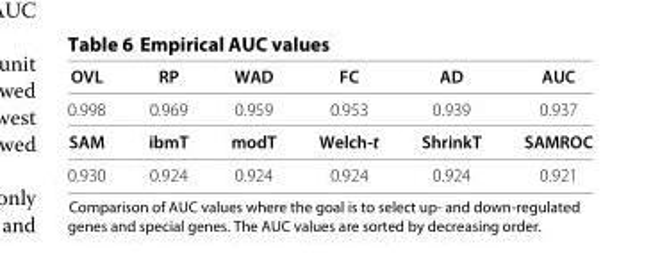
<table><thead><tr><td>OVL</td><td>RP</td><td>WAD</td><td>FC</td><td>AD</td><td>AUC</td></tr></thead><tbody><tr><td>0.998</td><td>0.969</td><td>0.959</td><td>0.953</td><td>0.939</td><td>0.937</td></tr><tr><td>SAM</td><td>ibmT</td><td>modT</td><td>Welch-t</td><td>ShrinkT</td><td>SAMROC</td></tr><tr><td>0.930</td><td>0.924</td><td>0.924</td><td>0.924</td><td>0.924</td><td>0.921</td></tr></tbody></table>